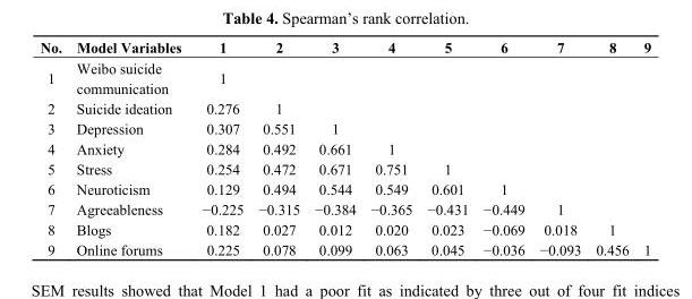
<table><thead><tr><td>No.</td><td>Model Variables</td><td>1</td><td>2</td><td>3</td><td>4</td><td>5</td><td>6</td><td>7</td><td>8</td><td>9</td></tr></thead><tbody><tr><td>1</td><td>Weibo suicide communication</td><td>1</td><td></td><td></td><td></td><td></td><td></td><td></td><td></td><td></td></tr><tr><td>2</td><td>Suicide ideation</td><td>0.276</td><td>1</td><td></td><td></td><td></td><td></td><td></td><td></td><td></td></tr><tr><td>3</td><td>Depression</td><td>0.307</td><td>0.551</td><td>1</td><td></td><td></td><td></td><td></td><td></td><td></td></tr><tr><td>4</td><td>Anxiety</td><td>0.284</td><td>0.492</td><td>0.661</td><td>1</td><td></td><td></td><td></td><td></td><td></td></tr><tr><td>5</td><td>Stress</td><td>0.254</td><td>0.472</td><td>0.671</td><td>0.751</td><td>1</td><td></td><td></td><td></td><td></td></tr><tr><td>6</td><td>Neuroticism</td><td>0.129</td><td>0.494</td><td>0.544</td><td>0.549</td><td>0.601</td><td>1</td><td></td><td></td><td></td></tr><tr><td>7</td><td>Agreeableness</td><td>−0.225</td><td>−0.315</td><td>−0.384</td><td>−0.365</td><td>−0.431</td><td>−0.449</td><td>1</td><td></td><td></td></tr><tr><td>8</td><td>Blogs</td><td>0.182</td><td>0.027</td><td>0.012</td><td>0.020</td><td>0.023</td><td>−0.069</td><td>0.018</td><td>1</td><td></td></tr><tr><td>9</td><td>Online forums</td><td>0.225</td><td>0.078</td><td>0.099</td><td>0.063</td><td>0.045</td><td>−0.036</td><td>−0.093</td><td>0.456</td><td>1</td></tr></tbody></table>